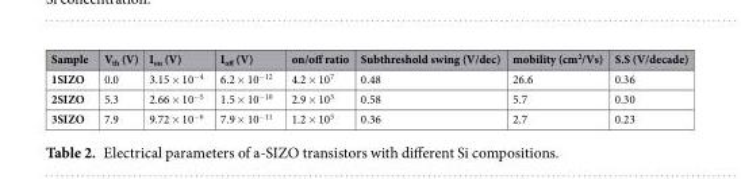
<table><thead><tr><td>Sample</td><td>V<sub>th</sub> (V)</td><td>I<sub>on</sub> (V)</td><td>I<sub>off</sub> (V)</td><td>on/off ratio</td><td>Subthreshold swing (V/dec)</td><td>mobility (cm<sup>2</sup>/Vs)</td><td>S.S (V/decade)</td></tr></thead><tbody><tr><td>1SIZO</td><td>0.0</td><td>3.15 × 10<sup>−4</sup></td><td>6.2 × 10<sup>−12</sup></td><td>4.2 × 10<sup>7</sup></td><td>0.48</td><td>26.6</td><td>0.36</td></tr><tr><td>2SIZO</td><td>5.3</td><td>2.66 × 10<sup>−5</sup></td><td>1.5 × 10<sup>−10</sup></td><td>2.9 × 10<sup>5</sup></td><td>0.58</td><td>5.7</td><td>0.30</td></tr><tr><td>3SIZO</td><td>7.9</td><td>9.72 × 10<sup>−6</sup></td><td>7.9 × 10<sup>−11</sup></td><td>1.2 × 10<sup>5</sup></td><td>0.36</td><td>2.7</td><td>0.23</td></tr></tbody></table>